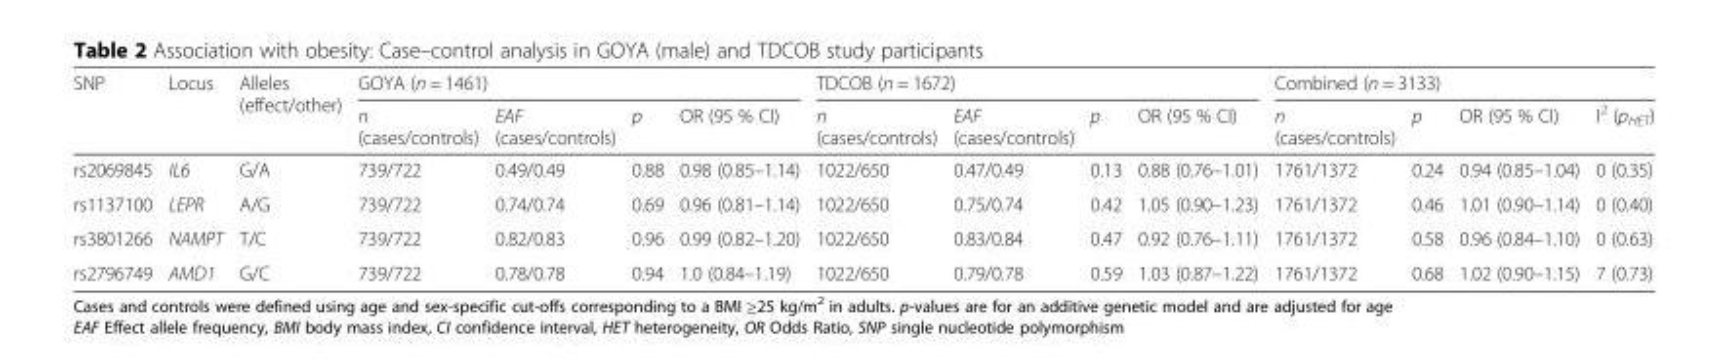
<table><thead><tr><td rowspan="2">SNP</td><td rowspan="2">Locus</td><td rowspan="2">Alleles (effect/other)</td><td colspan="4">GOYA (n = 1461)</td><td colspan="4">TDCOB (n = 1672)</td><td colspan="4">Combined (n = 3133)</td></tr><tr><td>n (cases/controls)</td><td>EAF (cases/controls)</td><td>p</td><td>OR (95 % CI)</td><td>n (cases/controls)</td><td>EAF (cases/controls)</td><td>p</td><td>OR (95 % CI)</td><td>n (cases/controls)</td><td>p</td><td>OR (95 % CI)</td><td>I<sup>2</sup> (p<sub>HET</sub>)</td></tr></thead><tbody><tr><td>rs2069845</td><td>IL6</td><td>G/A</td><td>739/722</td><td>0.49/0.49</td><td>0.88</td><td>0.98 (0.85–1.14)</td><td>1022/650</td><td>0.47/0.49</td><td>0.13</td><td>0.88 (0.76–1.01)</td><td>1761/1372</td><td>0.24</td><td>0.94 (0.85–1.04)</td><td>0 (0.35)</td></tr><tr><td>rs1137100</td><td>LEPR</td><td>A/G</td><td>739/722</td><td>0.74/0.74</td><td>0.69</td><td>0.96 (0.81–1.14)</td><td>1022/650</td><td>0.75/0.74</td><td>0.42</td><td>1.05 (0.90–1.23)</td><td>1761/1372</td><td>0.46</td><td>1.01 (0.90–1.14)</td><td>0 (0.40)</td></tr><tr><td>rs3801266</td><td>NAMPT</td><td>T/C</td><td>739/722</td><td>0.82/0.83</td><td>0.96</td><td>0.99 (0.82–1.20)</td><td>1022/650</td><td>0.83/0.84</td><td>0.47</td><td>0.92 (0.76–1.11)</td><td>1761/1372</td><td>0.58</td><td>0.96 (0.84–1.10)</td><td>0 (0.63)</td></tr><tr><td>rs2796749</td><td>AMD1</td><td>G/C</td><td>739/722</td><td>0.78/0.78</td><td>0.94</td><td>1.0 (0.84–1.19)</td><td>1022/650</td><td>0.79/0.78</td><td>0.59</td><td>1.03 (0.87–1.22)</td><td>1761/1372</td><td>0.68</td><td>1.02 (0.90–1.15)</td><td>7 (0.73)</td></tr></tbody></table>